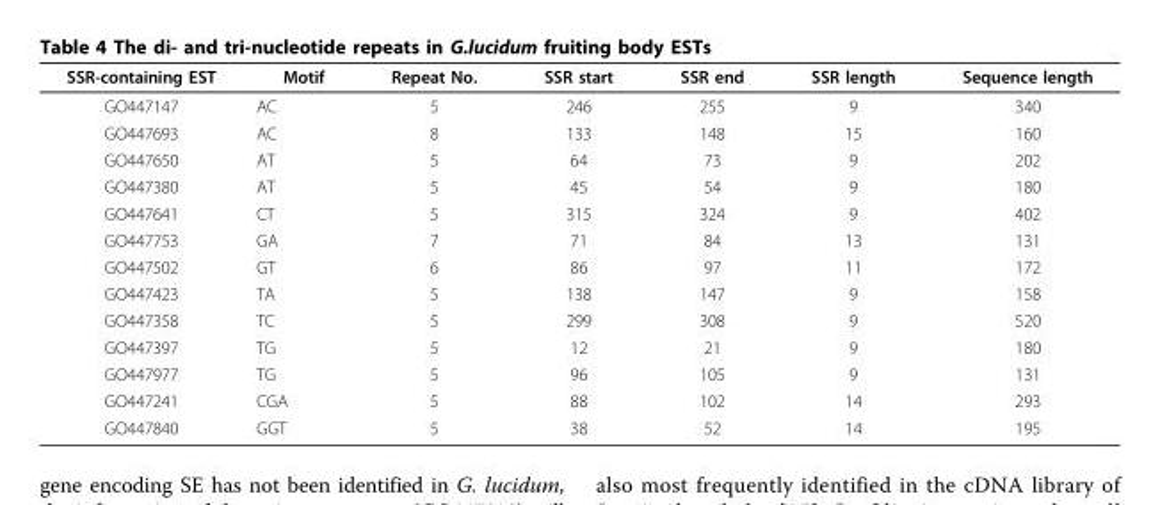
<table><thead><tr><td>SSR-containing EST</td><td>Motif</td><td>Repeat No.</td><td>SSR start</td><td>SSR end</td><td>SSR length</td><td>Sequence length</td></tr></thead><tbody><tr><td>GO447147</td><td>AC</td><td>5</td><td>246</td><td>255</td><td>9</td><td>340</td></tr><tr><td>GO447693</td><td>AC</td><td>8</td><td>133</td><td>148</td><td>15</td><td>160</td></tr><tr><td>GO447650</td><td>AT</td><td>5</td><td>64</td><td>73</td><td>9</td><td>202</td></tr><tr><td>GO447380</td><td>AT</td><td>5</td><td>45</td><td>54</td><td>9</td><td>180</td></tr><tr><td>GO447641</td><td>CT</td><td>5</td><td>315</td><td>324</td><td>9</td><td>402</td></tr><tr><td>GO447753</td><td>GA</td><td>7</td><td>71</td><td>84</td><td>13</td><td>131</td></tr><tr><td>GO447502</td><td>GT</td><td>6</td><td>86</td><td>97</td><td>11</td><td>172</td></tr><tr><td>GO447423</td><td>TA</td><td>5</td><td>138</td><td>147</td><td>9</td><td>158</td></tr><tr><td>GO447358</td><td>TC</td><td>5</td><td>299</td><td>308</td><td>9</td><td>520</td></tr><tr><td>GO447397</td><td>TG</td><td>5</td><td>12</td><td>21</td><td>9</td><td>180</td></tr><tr><td>GO447977</td><td>TG</td><td>5</td><td>96</td><td>105</td><td>9</td><td>131</td></tr><tr><td>GO447241</td><td>CGA</td><td>5</td><td>88</td><td>102</td><td>14</td><td>293</td></tr><tr><td>GO447840</td><td>GGT</td><td>5</td><td>38</td><td>52</td><td>14</td><td>195</td></tr></tbody></table>